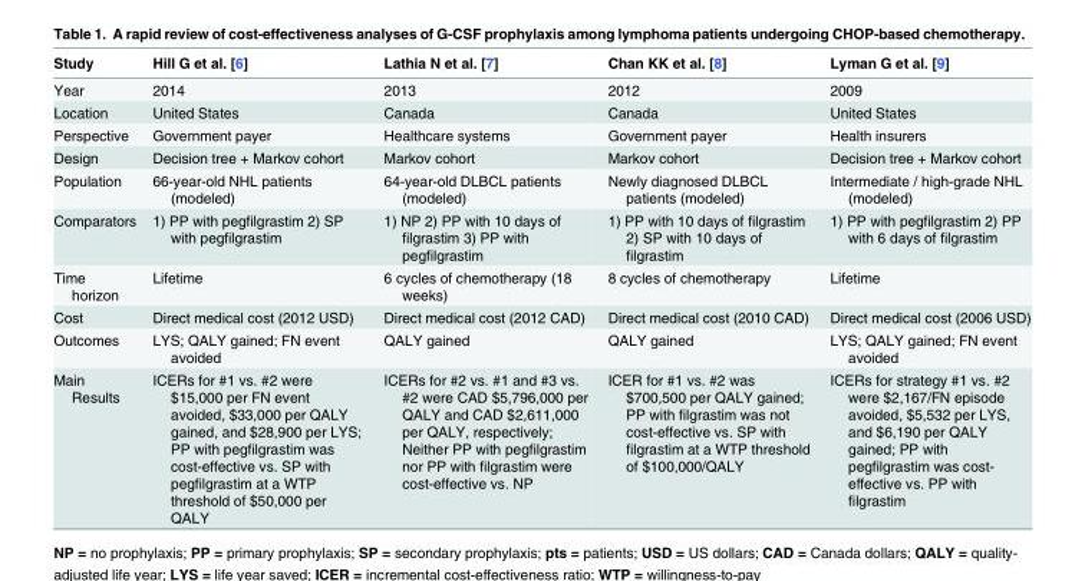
<table><thead><tr><td>Study</td><td>Hill G et al. [6]</td><td>Lathia N et al. [7]</td><td>Chan KK et al. [8]</td><td>Lyman G et al. [9]</td></tr></thead><tbody><tr><td>Year</td><td>2014</td><td>2013</td><td>2012</td><td>2009</td></tr><tr><td>Location</td><td>United States</td><td>Canada</td><td>Canada</td><td>United States</td></tr><tr><td>Perspective</td><td>Government payer</td><td>Healthcare systems</td><td>Government payer</td><td>Health insurers</td></tr><tr><td>Design</td><td>Decision tree + Markov cohort</td><td>Markov cohort</td><td>Markov cohort</td><td>Decision tree + Markov cohort</td></tr><tr><td>Population</td><td>66-year-old NHL patients (modeled)</td><td>64-year-old DLBCL patients (modeled)</td><td>Newly diagnosed DLBCL patients (modeled)</td><td>Intermediate / high-grade NHL (modeled)</td></tr><tr><td>Comparators</td><td>1) PP with pegfilgrastim 2) SP with pegfilgrastim</td><td>1) NP 2) PP with 10 days of filgrastim 3) PP with pegfilgrastim</td><td>1) PP with 10 days of filgrastim 2) SP with 10 days of filgrastim</td><td>1) PP with pegfilgrastim 2) PP with 6 days of filgrastim</td></tr><tr><td>Time horizon</td><td>Lifetime</td><td>6 cycles of chemotherapy (18 weeks)</td><td>8 cycles of chemotherapy</td><td>Lifetime</td></tr><tr><td>Cost</td><td>Direct medical cost (2012 USD)</td><td>Direct medical cost (2012 CAD)</td><td>Direct medical cost (2010 CAD)</td><td>Direct medical cost (2006 USD)</td></tr><tr><td>Outcomes</td><td>LYS; QALY gained; FN event avoided</td><td>QALY gained</td><td>QALY gained</td><td>LYS; QALY gained; FN event avoided</td></tr><tr><td>Main Results</td><td>ICERs for #1 vs. #2 were $15,000 per FN event avoided, $33,000 per QALY gained, and $28,900 per LYS; PP with pegfilgrastim was cost-effective vs. SP with pegfilgrastim at a WTP threshold of $50,000 per QALY</td><td>ICERs for #2 vs. #1 and #3 vs. #2 were CAD $5,796,000 per QALY and CAD $2,611,000 per QALY, respectively; Neither PP with pegfilgrastim nor PP with filgrastim were cost-effective vs. NP</td><td>ICER for #1 vs. #2 was $700,500 per QALY gained; PP with filgrastim was not cost-effective vs. SP with filgrastim at a WTP threshold of $100,000/QALY</td><td>ICERs for strategy #1 vs. #2 were $2,167/FN episode avoided, $5,532 per LYS, and $6,190 per QALY gained; PP with pegfilgrastim was cost- effective vs. PP with filgrastim</td></tr></tbody></table>